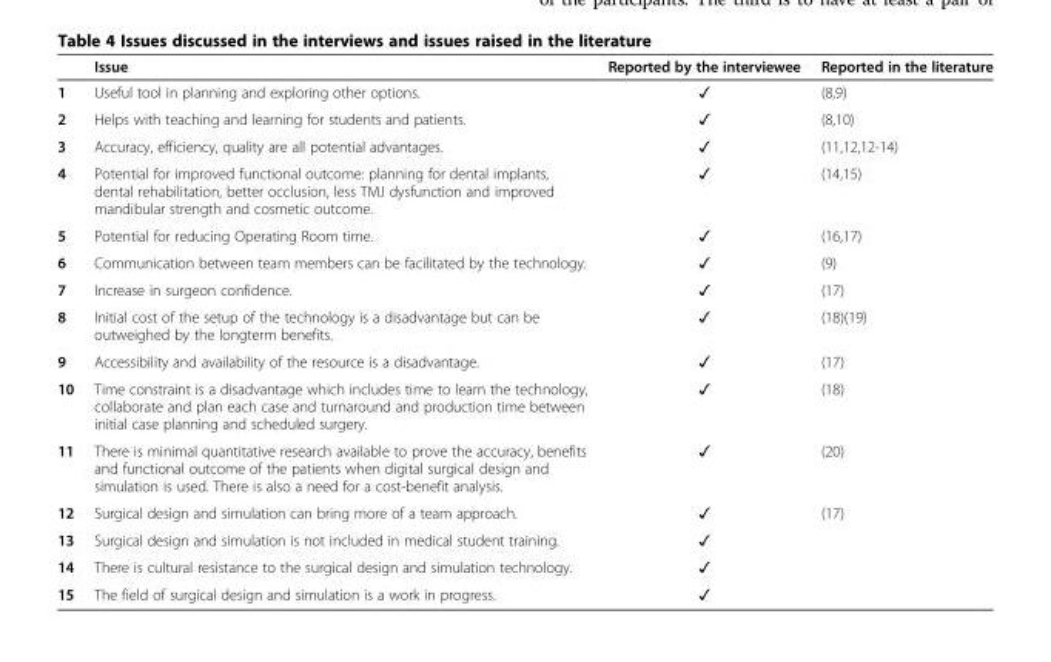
<table><thead><tr><td></td><td>Issue</td><td>Reported by the interviewee</td><td>Reported in the literature</td></tr></thead><tbody><tr><td>1</td><td>Useful tool in planning and exploring other options.</td><td>✓</td><td>(8,9)</td></tr><tr><td>2</td><td>Helps with teaching and learning for students and patients.</td><td>✓</td><td>(8,10)</td></tr><tr><td>3</td><td>Accuracy, efficiency, quality are all potential advantages.</td><td>✓</td><td>(11,12,12-14)</td></tr><tr><td>4</td><td>Potential for improved functional outcome: planning for dental implants, dental rehabilitation, better occlusion, less TMJ dysfunction and improved mandibular strength and cosmetic outcome.</td><td>✓</td><td>(14,15)</td></tr><tr><td>5</td><td>Potential for reducing Operating Room time.</td><td>✓</td><td>(16,17)</td></tr><tr><td>6</td><td>Communication between team members can be facilitated by the technology.</td><td>✓</td><td>(9)</td></tr><tr><td>7</td><td>Increase in surgeon confidence.</td><td>✓</td><td>(17)</td></tr><tr><td>8</td><td>Initial cost of the setup of the technology is a disadvantage but can be outweighed by the longterm benefits.</td><td>✓</td><td>(18)(19)</td></tr><tr><td>9</td><td>Accessibility and availability of the resource is a disadvantage.</td><td>✓</td><td>(17)</td></tr><tr><td>10</td><td>Time constraint is a disadvantage which includes time to learn the technology, collaborate and plan each case and turnaround and production time between initial case planning and scheduled surgery.</td><td>✓</td><td>(18)</td></tr><tr><td>11</td><td>There is minimal quantitative research available to prove the accuracy, benefits and functional outcome of the patients when digital surgical design and simulation is used. There is also a need for a cost-benefit analysis.</td><td>✓</td><td>(20)</td></tr><tr><td>12</td><td>Surgical design and simulation can bring more of a team approach.</td><td>✓</td><td>(17)</td></tr><tr><td>13</td><td>Surgical design and simulation is not included in medical student training.</td><td>✓</td><td></td></tr><tr><td>14</td><td>There is cultural resistance to the surgical design and simulation technology.</td><td>✓</td><td></td></tr><tr><td>15</td><td>The field of surgical design and simulation is a work in progress.</td><td>✓</td><td></td></tr></tbody></table>